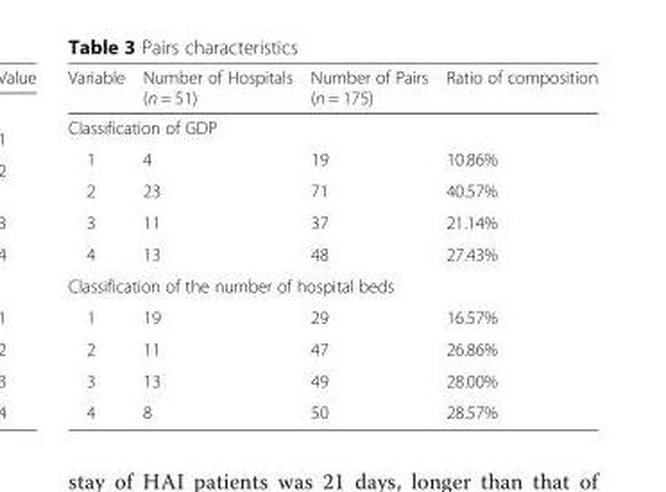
<table><thead><tr><td>Variable</td><td>Number of Hospitals (n = 51)</td><td>Number of Pairs (n = 175)</td><td>Ratio of composition</td></tr></thead><tbody><tr><td colspan="4">Classification of GDP</td></tr><tr><td>1</td><td>4</td><td>19</td><td>10.86%</td></tr><tr><td>2</td><td>23</td><td>71</td><td>40.57%</td></tr><tr><td>3</td><td>11</td><td>37</td><td>21.14%</td></tr><tr><td>4</td><td>13</td><td>48</td><td>27.43%</td></tr><tr><td colspan="4">Classification of the number of hospital beds</td></tr><tr><td>1</td><td>19</td><td>29</td><td>16.57%</td></tr><tr><td>2</td><td>11</td><td>47</td><td>26.86%</td></tr><tr><td>3</td><td>13</td><td>49</td><td>28.00%</td></tr><tr><td>4</td><td>8</td><td>50</td><td>28.57%</td></tr></tbody></table>